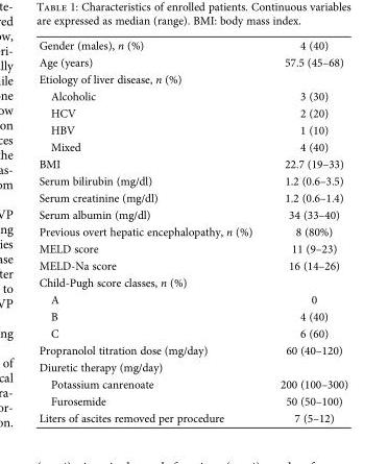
<table><tbody><tr><td>Gender (males), n (%)</td><td>4 (40)</td></tr><tr><td>Age (years)</td><td>57.5 (45–68)</td></tr><tr><td colspan="2">Etiology of liver disease, n (%)</td></tr><tr><td>Alcoholic</td><td>3 (30)</td></tr><tr><td>HCV</td><td>2 (20)</td></tr><tr><td>HBV</td><td>1 (10)</td></tr><tr><td>Mixed</td><td>4 (40)</td></tr><tr><td>BMI</td><td>22.7 (19–33)</td></tr><tr><td>Serum bilirubin (mg/dl)</td><td>1.2 (0.6–3.5)</td></tr><tr><td>Serum creatinine (mg/dl)</td><td>1.2 (0.6–1.4)</td></tr><tr><td>Serum albumin (mg/dl)</td><td>34 (33–40)</td></tr><tr><td>Previous overt hepatic encephalopathy, n (%)</td><td>8 (80%)</td></tr><tr><td>MELD score</td><td>11 (9–23)</td></tr><tr><td>MELD-Na score</td><td>16 (14–26)</td></tr><tr><td colspan="2">Child-Pugh score classes, n (%)</td></tr><tr><td>A</td><td>0</td></tr><tr><td>B</td><td>4 (40)</td></tr><tr><td>C</td><td>6 (60)</td></tr><tr><td>Propranolol titration dose (mg/day)</td><td>60 (40–120)</td></tr><tr><td colspan="2">Diuretic therapy (mg/day)</td></tr><tr><td>Potassium canrenoate</td><td>200 (100–300)</td></tr><tr><td>Furosemide</td><td>50 (50–100)</td></tr><tr><td>Liters of ascites removed per procedure</td><td>7 (5–12)</td></tr></tbody></table>